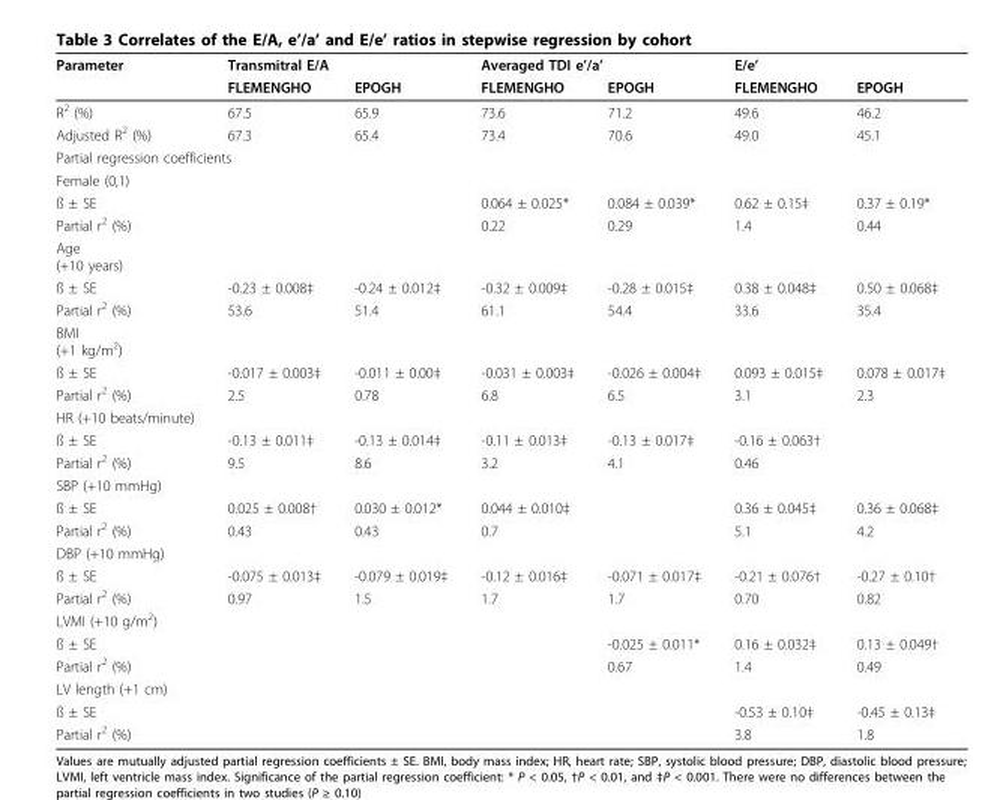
<table><thead><tr><td rowspan="2">Parameter</td><td colspan="2">Transmitral E/A</td><td colspan="2">Averaged TDI e’/a’</td><td colspan="2">E/e’</td></tr><tr><td>FLEMENGHO</td><td>EPOGH</td><td>FLEMENGHO</td><td>EPOGH</td><td>FLEMENGHO</td><td>EPOGH</td></tr></thead><tbody><tr><td>R<sup>2</sup> (%)</td><td>67.5</td><td>65.9</td><td>73.6</td><td>71.2</td><td>49.6</td><td>46.2</td></tr><tr><td>Adjusted R<sup>2</sup> (%)</td><td>67.3</td><td>65.4</td><td>73.4</td><td>70.6</td><td>49.0</td><td>45.1</td></tr><tr><td colspan="7">Partial regression coefficients</td></tr><tr><td colspan="7">Female (0,1)</td></tr><tr><td>ß ± SE</td><td></td><td></td><td>0.064 ± 0.025*</td><td>0.084 ± 0.039*</td><td>0.62 ± 0.15‡</td><td>0.37 ± 0.19*</td></tr><tr><td>Partial r<sup>2</sup> (%)</td><td></td><td></td><td>0.22</td><td>0.29</td><td>1.4</td><td>0.44</td></tr><tr><td colspan="7">Age (+10 years)</td></tr><tr><td>ß ± SE</td><td>-0.23 ± 0.008‡</td><td>-0.24 ± 0.012‡</td><td>-0.32 ± 0.009‡</td><td>-0.28 ± 0.015‡</td><td>0.38 ± 0.048‡</td><td>0.50 ± 0.068‡</td></tr><tr><td>Partial r<sup>2</sup> (%)</td><td>53.6</td><td>51.4</td><td>61.1</td><td>54.4</td><td>33.6</td><td>35.4</td></tr><tr><td colspan="7">BMI (+1 kg/m<sup>2</sup>)</td></tr><tr><td>ß ± SE</td><td>-0.017 ± 0.003‡</td><td>-0.011 ± 0.00‡</td><td>-0.031 ± 0.003‡</td><td>-0.026 ± 0.004‡</td><td>0.093 ± 0.015‡</td><td>0.078 ± 0.017‡</td></tr><tr><td>Partial r<sup>2</sup> (%)</td><td>2.5</td><td>0.78</td><td>6.8</td><td>6.5</td><td>3.1</td><td>2.3</td></tr><tr><td colspan="7">HR (+10 beats/minute)</td></tr><tr><td>ß ± SE</td><td>-0.13 ± 0.011‡</td><td>-0.13 ± 0.014‡</td><td>-0.11 ± 0.013‡</td><td>-0.13 ± 0.017‡</td><td>-0.16 ± 0.063†</td><td></td></tr><tr><td>Partial r<sup>2</sup> (%)</td><td>9.5</td><td>8.6</td><td>3.2</td><td>4.1</td><td>0.46</td><td></td></tr><tr><td colspan="7">SBP (+10 mmHg)</td></tr><tr><td>ß ± SE</td><td>0.025 ± 0.008†</td><td>0.030 ± 0.012*</td><td>0.044 ± 0.010‡</td><td></td><td>0.36 ± 0.045‡</td><td>0.36 ± 0.068‡</td></tr><tr><td>Partial r<sup>2</sup> (%)</td><td>0.43</td><td>0.43</td><td>0.7</td><td></td><td>5.1</td><td>4.2</td></tr><tr><td colspan="7">DBP (+10 mmHg)</td></tr><tr><td>ß ± SE</td><td>-0.075 ± 0.013‡</td><td>-0.079 ± 0.019‡</td><td>-0.12 ± 0.016‡</td><td>-0.071 ± 0.017‡</td><td>-0.21 ± 0.076†</td><td>-0.27 ± 0.10†</td></tr><tr><td>Partial r<sup>2</sup> (%)</td><td>0.97</td><td>1.5</td><td>1.7</td><td>1.7</td><td>0.70</td><td>0.82</td></tr><tr><td colspan="7">LVMI (+10 g/m<sup>2</sup>)</td></tr><tr><td>ß ± SE</td><td></td><td></td><td></td><td>-0.025 ± 0.011*</td><td>0.16 ± 0.032‡</td><td>0.13 ± 0.049†</td></tr><tr><td>Partial r<sup>2</sup> (%)</td><td></td><td></td><td></td><td>0.67</td><td>1.4</td><td>0.49</td></tr><tr><td colspan="7">LV length (+1 cm)</td></tr><tr><td>ß ± SE</td><td></td><td></td><td></td><td></td><td>-0.53 ± 0.10‡</td><td>-0.45 ± 0.13‡</td></tr><tr><td>Partial r<sup>2</sup> (%)</td><td></td><td></td><td></td><td></td><td>3.8</td><td>1.8</td></tr></tbody></table>